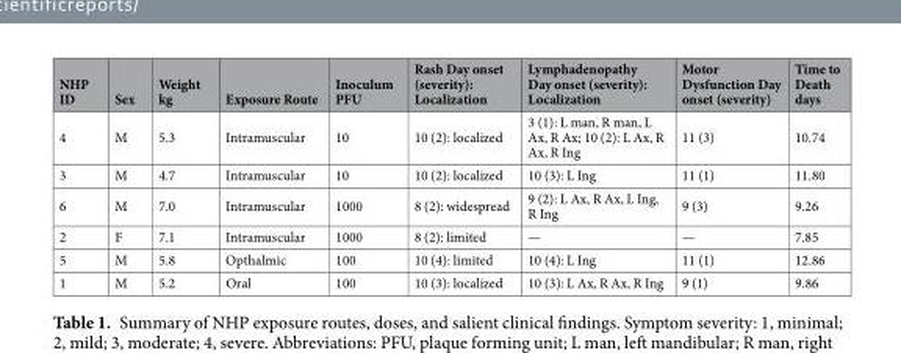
<table><thead><tr><td>NHP ID</td><td>Sex</td><td>Weight kg</td><td>Exposure Route</td><td>Inoculum PFU</td><td>Rash Day onset (severity): Localization</td><td>Lymphadenopathy Day onset (severity): Localization</td><td>Motor Dysfunction Day onset (severity)</td><td>Time to Death days</td></tr></thead><tbody><tr><td>4</td><td>M</td><td>5.3</td><td>Intramuscular</td><td>10</td><td>10 (2): localized</td><td>3 (1): L man, R man, L Ax, R Ax; 10 (2): L Ax, R Ax, R Ing</td><td>11 (3)</td><td>10.74</td></tr><tr><td>3</td><td>M</td><td>4.7</td><td>Intramuscular</td><td>10</td><td>10 (2): localized</td><td>10 (3): L Ing</td><td>11 (1)</td><td>11.80</td></tr><tr><td>6</td><td>M</td><td>7.0</td><td>Intramuscular</td><td>1000</td><td>8 (2): widespread</td><td>9 (2): L Ax, R Ax, L Ing, R Ing</td><td>9 (3)</td><td>9.26</td></tr><tr><td>2</td><td>F</td><td>7.1</td><td>Intramuscular</td><td>1000</td><td>8 (2): limited</td><td>—</td><td>—</td><td>7.85</td></tr><tr><td>5</td><td>M</td><td>5.8</td><td>Opthalmic</td><td>100</td><td>10 (4): limited</td><td>10 (4): L Ing</td><td>11 (1)</td><td>12.86</td></tr><tr><td>1</td><td>M</td><td>5.2</td><td>Oral</td><td>100</td><td>10 (3): localized</td><td>10 (3): L Ax, R Ax, R Ing</td><td>9 (1)</td><td>9.86</td></tr></tbody></table>